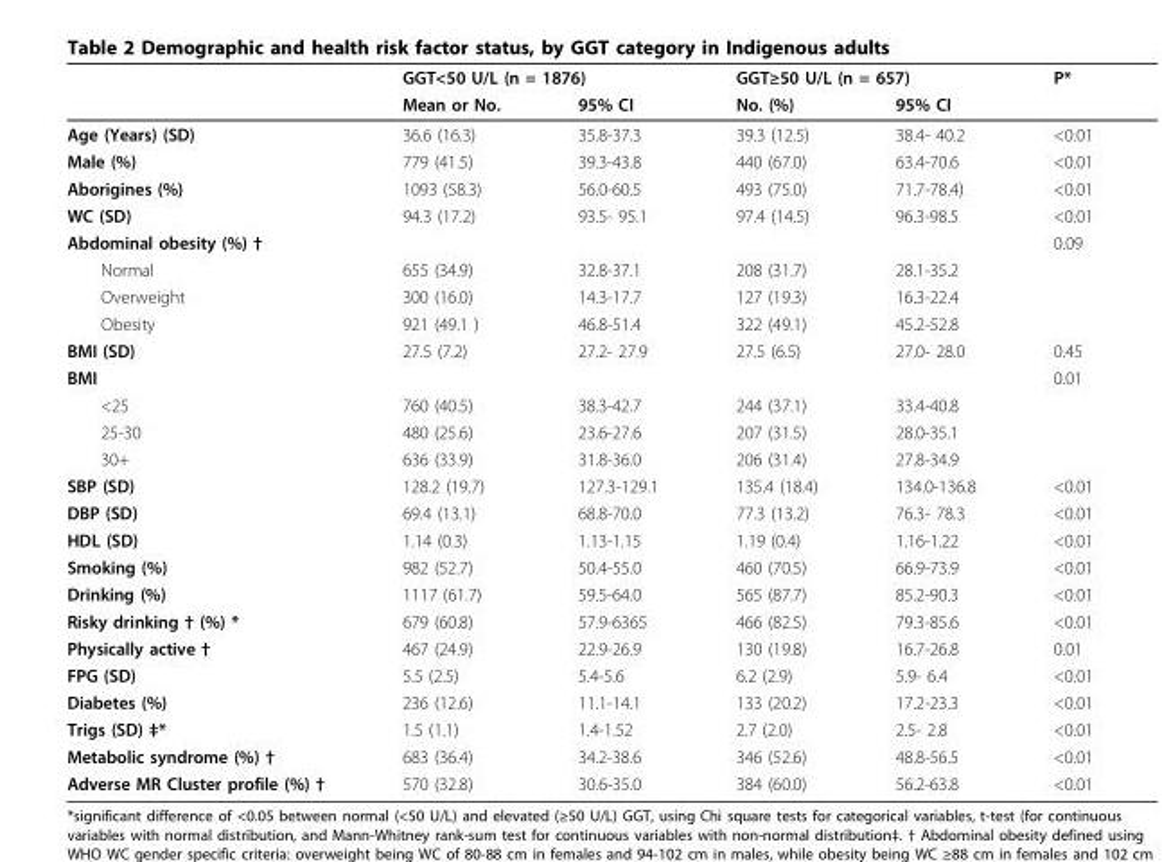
<table><thead><tr><td rowspan="2"></td><td colspan="2">GGT&lt;50 U/L (n = 1876)</td><td colspan="2">GGT≥50 U/L (n = 657)</td><td rowspan="2">P*</td></tr><tr><td>Mean or No.</td><td>95% CI</td><td>No. (%)</td><td>95% CI</td></tr></thead><tbody><tr><td>Age (Years) (SD)</td><td>36.6 (16.3)</td><td>35.8-37.3</td><td>39.3 (12.5)</td><td>38.4- 40.2</td><td>&lt;0.01</td></tr><tr><td>Male (%)</td><td>779 (41.5)</td><td>39.3-43.8</td><td>440 (67.0)</td><td>63.4-70.6</td><td>&lt;0.01</td></tr><tr><td>Aborigines (%)</td><td>1093 (58.3)</td><td>56.0-60.5</td><td>493 (75.0)</td><td>71.7-78.4)</td><td>&lt;0.01</td></tr><tr><td>WC (SD)</td><td>94.3 (17.2)</td><td>93.5- 95.1</td><td>97.4 (14.5)</td><td>96.3-98.5</td><td>&lt;0.01</td></tr><tr><td>Abdominal obesity (%) †</td><td></td><td></td><td></td><td></td><td>0.09</td></tr><tr><td>Normal</td><td>655 (34.9)</td><td>32.8-37.1</td><td>208 (31.7)</td><td>28.1-35.2</td><td></td></tr><tr><td>Overweight</td><td>300 (16.0)</td><td>14.3-17.7</td><td>127 (19.3)</td><td>16.3-22.4</td><td></td></tr><tr><td>Obesity</td><td>921 (49.1 )</td><td>46.8-51.4</td><td>322 (49.1)</td><td>45.2-52.8</td><td></td></tr><tr><td>BMI (SD)</td><td>27.5 (7.2)</td><td>27.2- 27.9</td><td>27.5 (6.5)</td><td>27.0- 28.0</td><td>0.45</td></tr><tr><td>BMI</td><td></td><td></td><td></td><td></td><td>0.01</td></tr><tr><td>&lt;25</td><td>760 (40.5)</td><td>38.3-42.7</td><td>244 (37.1)</td><td>33.4-40.8</td><td></td></tr><tr><td>25-30</td><td>480 (25.6)</td><td>23.6-27.6</td><td>207 (31.5)</td><td>28.0-35.1</td><td></td></tr><tr><td>30+</td><td>636 (33.9)</td><td>31.8-36.0</td><td>206 (31.4)</td><td>27.8-34.9</td><td></td></tr><tr><td>SBP (SD)</td><td>128.2 (19.7)</td><td>127.3-129.1</td><td>135.4 (18.4)</td><td>134.0-136.8</td><td>&lt;0.01</td></tr><tr><td>DBP (SD)</td><td>69.4 (13.1)</td><td>68.8-70.0</td><td>77.3 (13.2)</td><td>76.3- 78.3</td><td>&lt;0.01</td></tr><tr><td>HDL (SD)</td><td>1.14 (0.3)</td><td>1.13-1.15</td><td>1.19 (0.4)</td><td>1.16-1.22</td><td>&lt;0.01</td></tr><tr><td>Smoking (%)</td><td>982 (52.7)</td><td>50.4-55.0</td><td>460 (70.5)</td><td>66.9-73.9</td><td>&lt;0.01</td></tr><tr><td>Drinking (%)</td><td>1117 (61.7)</td><td>59.5-64.0</td><td>565 (87.7)</td><td>85.2-90.3</td><td>&lt;0.01</td></tr><tr><td>Risky drinking † (%) *</td><td>679 (60.8)</td><td>57.9-6365</td><td>466 (82.5)</td><td>79.3-85.6</td><td>&lt;0.01</td></tr><tr><td>Physically active †</td><td>467 (24.9)</td><td>22.9-26.9</td><td>130 (19.8)</td><td>16.7-26.8</td><td>0.01</td></tr><tr><td>FPG (SD)</td><td>5.5 (2.5)</td><td>5.4-5.6</td><td>6.2 (2.9)</td><td>5.9- 6.4</td><td>&lt;0.01</td></tr><tr><td>Diabetes (%)</td><td>236 (12.6)</td><td>11.1-14.1</td><td>133 (20.2)</td><td>17.2-23.3</td><td>&lt;0.01</td></tr><tr><td>Trigs (SD) ‡*</td><td>1.5 (1.1)</td><td>1.4-1.52</td><td>2.7 (2.0)</td><td>2.5- 2.8</td><td>&lt;0.01</td></tr><tr><td>Metabolic syndrome (%) †</td><td>683 (36.4)</td><td>34.2-38.6</td><td>346 (52.6)</td><td>48.8-56.5</td><td>&lt;0.01</td></tr><tr><td>Adverse MR Cluster profile (%) †</td><td>570 (32.8)</td><td>30.6-35.0</td><td>384 (60.0)</td><td>56.2-63.8</td><td>&lt;0.01</td></tr></tbody></table>